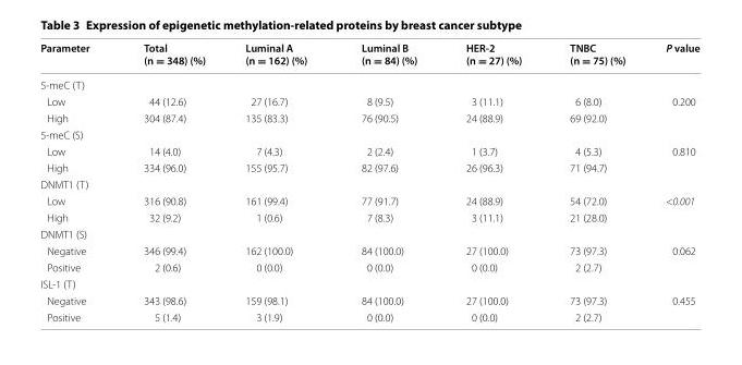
<table><thead><tr><td>Parameter</td><td>Total (n = 348) (%)</td><td>Luminal A (n = 162) (%)</td><td>Luminal B (n = 84) (%)</td><td>HER‑2 (n = 27) (%)</td><td>TNBC (n = 75) (%)</td><td>P value</td></tr></thead><tbody><tr><td colspan="7">5-meC (T)</td></tr><tr><td>Low</td><td>44 (12.6)</td><td>27 (16.7)</td><td>8 (9.5)</td><td>3 (11.1)</td><td>6 (8.0)</td><td rowspan="2">0.200</td></tr><tr><td>High</td><td>304 (87.4)</td><td>135 (83.3)</td><td>76 (90.5)</td><td>24 (88.9)</td><td>69 (92.0)</td></tr><tr><td colspan="7">5-meC (S)</td></tr><tr><td>Low</td><td>14 (4.0)</td><td>7 (4.3)</td><td>2 (2.4)</td><td>1 (3.7)</td><td>4 (5.3)</td><td rowspan="2">0.810</td></tr><tr><td>High</td><td>334 (96.0)</td><td>155 (95.7)</td><td>82 (97.6)</td><td>26 (96.3)</td><td>71 (94.7)</td></tr><tr><td colspan="7">DNMT1 (T)</td></tr><tr><td>Low</td><td>316 (90.8)</td><td>161 (99.4)</td><td>77 (91.7)</td><td>24 (88.9)</td><td>54 (72.0)</td><td rowspan="2">&lt;0.001</td></tr><tr><td>High</td><td>32 (9.2)</td><td>1 (0.6)</td><td>7 (8.3)</td><td>3 (11.1)</td><td>21 (28.0)</td></tr><tr><td colspan="7">DNMT1 (S)</td></tr><tr><td>Negative</td><td>346 (99.4)</td><td>162 (100.0)</td><td>84 (100.0)</td><td>27 (100.0)</td><td>73 (97.3)</td><td rowspan="2">0.062</td></tr><tr><td>Positive</td><td>2 (0.6)</td><td>0 (0.0)</td><td>0 (0.0)</td><td>0 (0.0)</td><td>2 (2.7)</td></tr><tr><td colspan="7">ISL-1 (T)</td></tr><tr><td>Negative</td><td>343 (98.6)</td><td>159 (98.1)</td><td>84 (100.0)</td><td>27 (100.0)</td><td>73 (97.3)</td><td rowspan="2">0.455</td></tr><tr><td>Positive</td><td>5 (1.4)</td><td>3 (1.9)</td><td>0 (0.0)</td><td>0 (0.0)</td><td>2 (2.7)</td></tr></tbody></table>